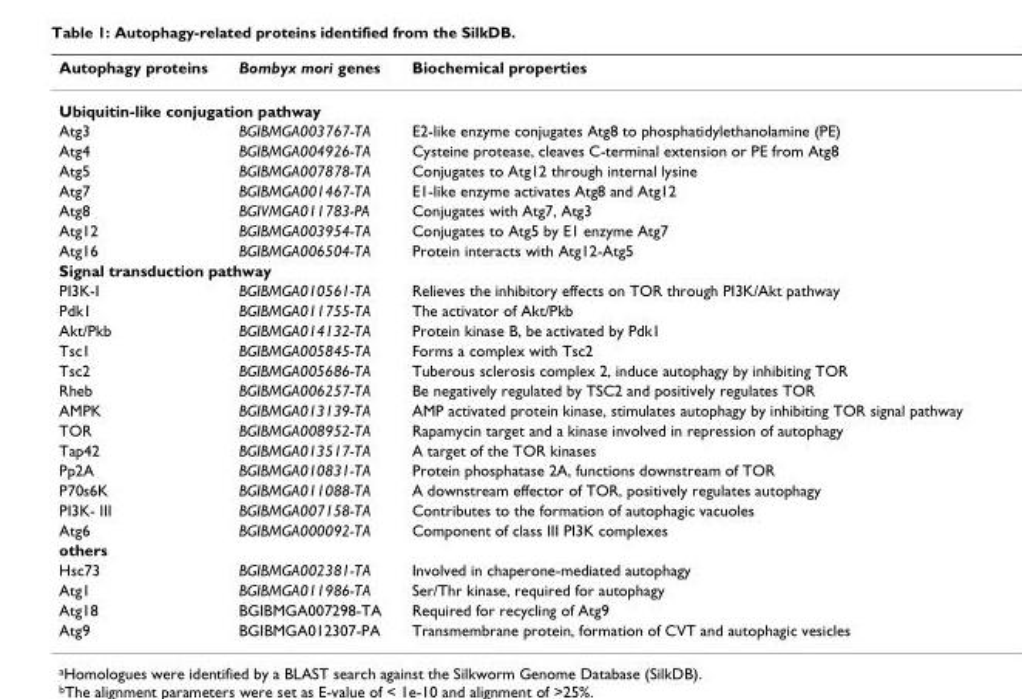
<table><thead><tr><td>Autophagy proteins</td><td>Bombyx mori genes</td><td>Biochemical properties</td></tr></thead><tbody><tr><td colspan="3">Ubiquitin-like conjugation pathway</td></tr><tr><td>Atg3</td><td>BGIBMGA003767-TA</td><td>E2-like enzyme conjugates Atg8 to phosphatidylethanolamine (PE)</td></tr><tr><td>Atg4</td><td>BGIBMGA004926-TA</td><td>Cysteine protease, cleaves C-terminal extension or PE from Atg8</td></tr><tr><td>Atg5</td><td>BGIBMGA007878-TA</td><td>Conjugates to Atg12 through internal lysine</td></tr><tr><td>Atg7</td><td>BGIBMGA001467-TA</td><td>E1-like enzyme activates Atg8 and Atg12</td></tr><tr><td>Atg8</td><td>BGIVMGA011783-PA</td><td>Conjugates with Atg7, Atg3</td></tr><tr><td>Atg12</td><td>BGIBMGA003954-TA</td><td>Conjugates to Atg5 by E1 enzyme Atg7</td></tr><tr><td>Atg16</td><td>BGIBMGA006504-TA</td><td>Protein interacts with Atg12-Atg5</td></tr><tr><td colspan="3">Signal transduction pathway</td></tr><tr><td>PI3K-I</td><td>BGIBMGA010561-TA</td><td>Relieves the inhibitory effects on TOR through PI3K/Akt pathway</td></tr><tr><td>Pdk1</td><td>BGIBMGA011755-TA</td><td>The activator of Akt/Pkb</td></tr><tr><td>Akt/Pkb</td><td>BGIBMGA014132-TA</td><td>Protein kinase B, be activated by Pdk1</td></tr><tr><td>Tsc1</td><td>BGIBMGA005845-TA</td><td>Forms a complex with Tsc2</td></tr><tr><td>Tsc2</td><td>BGIBMGA005686-TA</td><td>Tuberous sclerosis complex 2, induce autophagy by inhibiting TOR</td></tr><tr><td>Rheb</td><td>BGIBMGA006257-TA</td><td>Be negatively regulated by TSC2 and positively regulates TOR</td></tr><tr><td>AMPK</td><td>BGIBMGA013139-TA</td><td>AMP activated protein kinase, stimulates autophagy by inhibiting TOR signal pathway</td></tr><tr><td>TOR</td><td>BGIBMGA008952-TA</td><td>Rapamycin target and a kinase involved in repression of autophagy</td></tr><tr><td>Tap42</td><td>BGIBMGA013517-TA</td><td>A target of the TOR kinases</td></tr><tr><td>Pp2A</td><td>BGIBMGA010831-TA</td><td>Protein phosphatase 2A, functions downstream of TOR</td></tr><tr><td>P70s6K</td><td>BGIBMGA011088-TA</td><td>A downstream effector of TOR, positively regulates autophagy</td></tr><tr><td>PI3K- III</td><td>BGIBMGA007158-TA</td><td>Contributes to the formation of autophagic vacuoles</td></tr><tr><td>Atg6</td><td>BGIBMGA000092-TA</td><td>Component of class III PI3K complexes</td></tr><tr><td colspan="3">others</td></tr><tr><td>Hsc73</td><td>BGIBMGA002381-TA</td><td>Involved in chaperone-mediated autophagy</td></tr><tr><td>Atg1</td><td>BGIBMGA011986-TA</td><td>Ser/Thr kinase, required for autophagy</td></tr><tr><td>Atg18</td><td>BGIBMGA007298-TA</td><td>Required for recycling of Atg9</td></tr><tr><td>Atg9</td><td>BGIBMGA012307-PA</td><td>Transmembrane protein, formation of CVT and autophagic vesicles</td></tr></tbody></table>